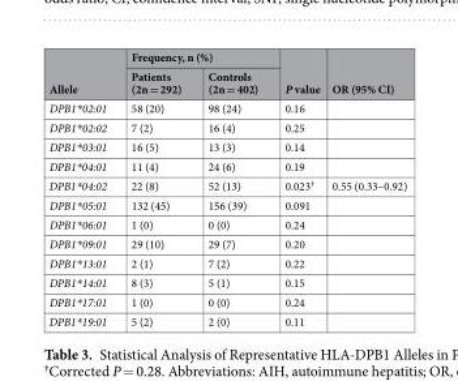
<table><thead><tr><td rowspan="2">Allele</td><td colspan="2">Frequency, n (%)</td><td rowspan="2">P value</td><td rowspan="2">OR (95% CI)</td></tr><tr><td>Patients (2n = 292)</td><td>Controls (2n = 402)</td></tr></thead><tbody><tr><td>DPB1*02:01</td><td>58 (20)</td><td>98 (24)</td><td>0.16</td><td></td></tr><tr><td>DPB1*02:02</td><td>7 (2)</td><td>16 (4)</td><td>0.25</td><td></td></tr><tr><td>DPB1*03:01</td><td>16 (5)</td><td>13 (3)</td><td>0.14</td><td></td></tr><tr><td>DPB1*04:01</td><td>11 (4)</td><td>24 (6)</td><td>0.19</td><td></td></tr><tr><td>DPB1*04:02</td><td>22 (8)</td><td>52 (13)</td><td>0.023<sup>†</sup></td><td>0.55 (0.33–0.92)</td></tr><tr><td>DPB1*05:01</td><td>132 (45)</td><td>156 (39)</td><td>0.091</td><td></td></tr><tr><td>DPB1*06:01</td><td>1 (0)</td><td>0 (0)</td><td>0.24</td><td></td></tr><tr><td>DPB1*09:01</td><td>29 (10)</td><td>29 (7)</td><td>0.20</td><td></td></tr><tr><td>DPB1*13:01</td><td>2 (1)</td><td>7 (2)</td><td>0.22</td><td></td></tr><tr><td>DPB1*14:01</td><td>8 (3)</td><td>5 (1)</td><td>0.15</td><td></td></tr><tr><td>DPB1*17:01</td><td>1 (0)</td><td>0 (0)</td><td>0.24</td><td></td></tr><tr><td>DPB1*19:01</td><td>5 (2)</td><td>2 (0)</td><td>0.11</td><td></td></tr></tbody></table>